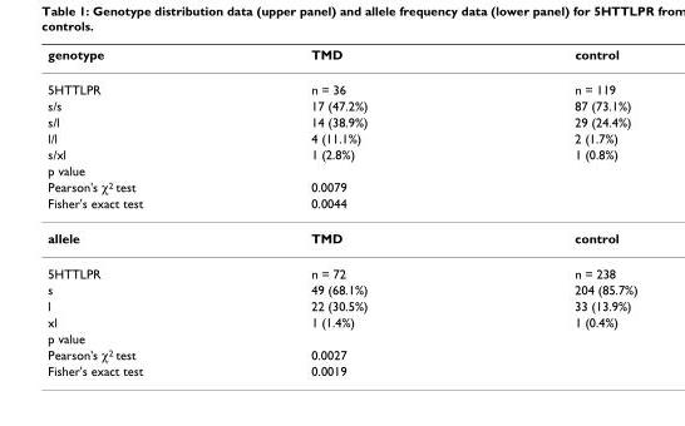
<table><thead><tr><td>genotype</td><td>TMD</td><td>control</td></tr></thead><tbody><tr><td>5HTTLPR</td><td>n = 36</td><td>n = 119</td></tr><tr><td>s/s</td><td>17 (47.2%)</td><td>87 (73.1%)</td></tr><tr><td>s/l</td><td>14 (38.9%)</td><td>29 (24.4%)</td></tr><tr><td>l/l</td><td>4 (11.1%)</td><td>2 (1.7%)</td></tr><tr><td>s/xl</td><td>1 (2.8%)</td><td>1 (0.8%)</td></tr><tr><td colspan="3">p value</td></tr><tr><td>Pearson&#x27;s χ<sup>2</sup> test</td><td>0.0079</td><td></td></tr><tr><td>Fisher&#x27;s exact test</td><td>0.0044</td><td></td></tr><tr><td>allele</td><td>TMD</td><td>control</td></tr><tr><td>5HTTLPR</td><td>n = 72</td><td>n = 238</td></tr><tr><td>s</td><td>49 (68.1%)</td><td>204 (85.7%)</td></tr><tr><td>l</td><td>22 (30.5%)</td><td>33 (13.9%)</td></tr><tr><td>xl</td><td>1 (1.4%)</td><td>1 (0.4%)</td></tr><tr><td colspan="3">p value</td></tr><tr><td>Pearson&#x27;s χ<sup>2</sup> test</td><td>0.0027</td><td></td></tr><tr><td>Fisher&#x27;s exact test</td><td>0.0019</td><td></td></tr></tbody></table>